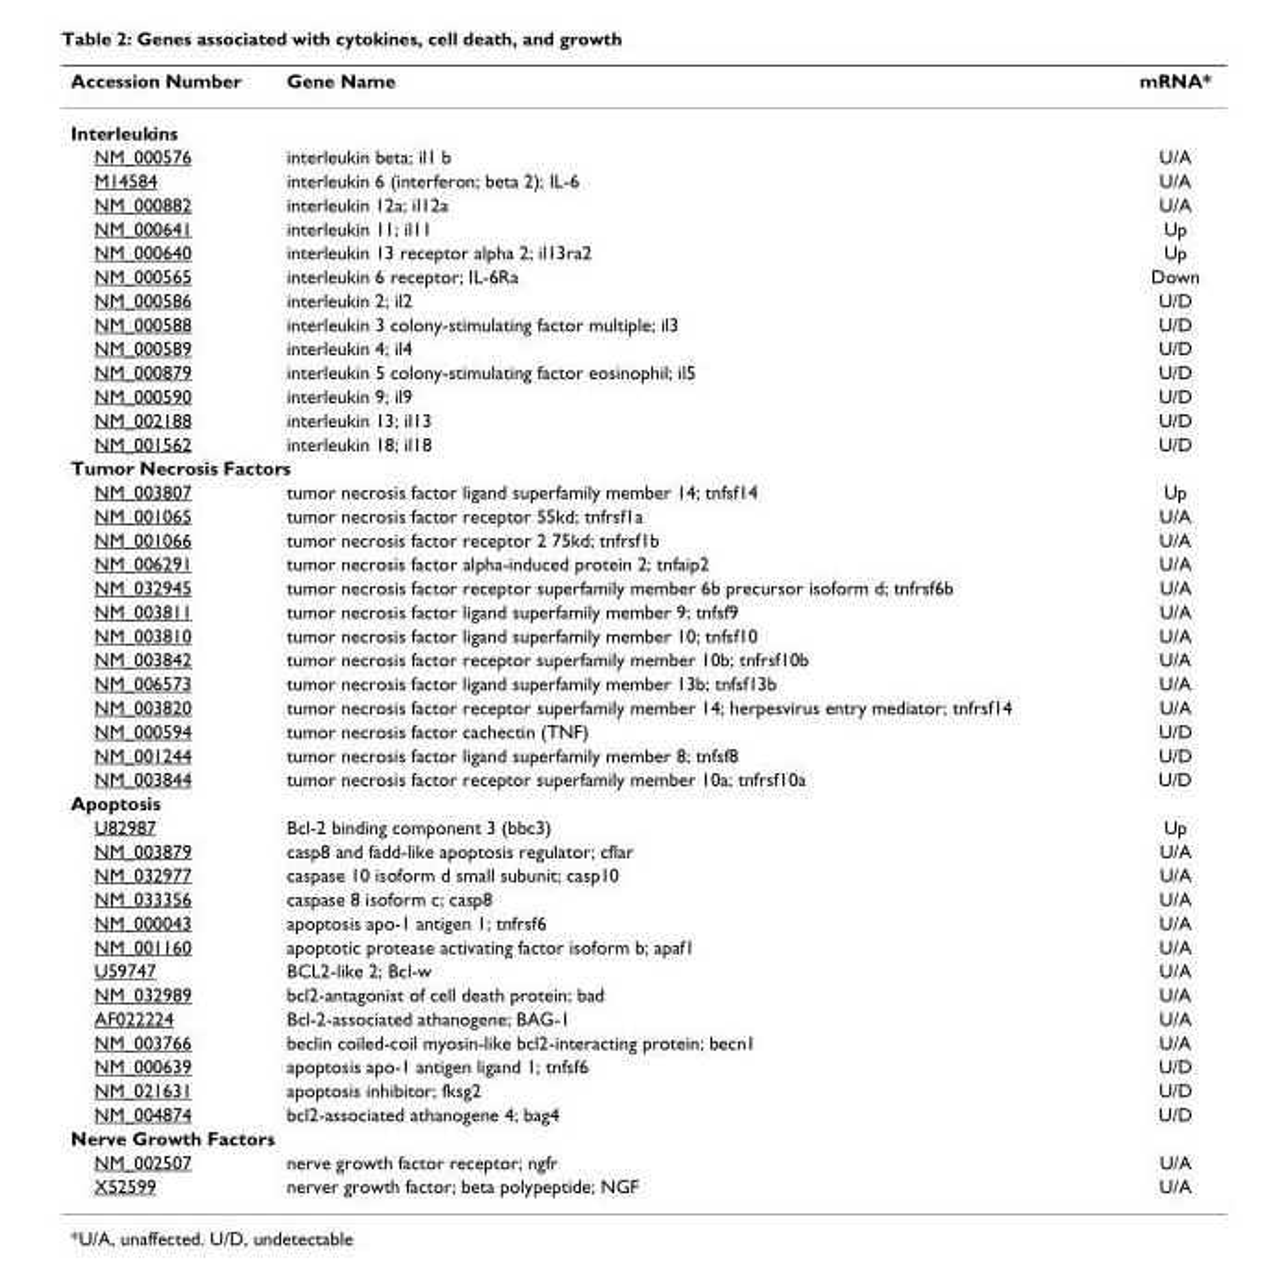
<table><thead><tr><td>Accession Number</td><td>Gene Name</td><td>mRNA*</td></tr></thead><tbody><tr><td colspan="3">Interleukins</td></tr><tr><td>NM_000576</td><td>interleukin beta; il1 b</td><td>U/A</td></tr><tr><td>M14584</td><td>interleukin 6 (interferon; beta 2); IL-6</td><td>U/A</td></tr><tr><td>NM_000882</td><td>interleukin 12a; il12a</td><td>U/A</td></tr><tr><td>NM_000641</td><td>interleukin 11; il11</td><td>Up</td></tr><tr><td>NM_000640</td><td>interleukin 13 receptor alpha 2; il13ra2</td><td>Up</td></tr><tr><td>NM_000565</td><td>interleukin 6 receptor; IL-6Ra</td><td>Down</td></tr><tr><td>NM_000586</td><td>interleukin 2; il2</td><td>U/D</td></tr><tr><td>NM_000588</td><td>interleukin 3 colony-stimulating factor multiple; il3</td><td>U/D</td></tr><tr><td>NM_000589</td><td>interleukin 4; il4</td><td>U/D</td></tr><tr><td>NM_000879</td><td>interleukin 5 colony-stimulating factor eosinophil; il5</td><td>U/D</td></tr><tr><td>NM_000590</td><td>interleukin 9; il9</td><td>U/D</td></tr><tr><td>NM_002188</td><td>interleukin 13; il13</td><td>U/D</td></tr><tr><td>NM_001562</td><td>interleukin 18; il18</td><td>U/D</td></tr><tr><td colspan="3">Tumor Necrosis Factors</td></tr><tr><td>NM_003807</td><td>tumor necrosis factor ligand superfamily member 14; tnfsf14</td><td>Up</td></tr><tr><td>NM_001065</td><td>tumor necrosis factor receptor 55kd; tnfrsf1a</td><td>U/A</td></tr><tr><td>NM_001066</td><td>tumor necrosis factor receptor 2 75kd; tnfrsf1b</td><td>U/A</td></tr><tr><td>NM_006291</td><td>tumor necrosis factor alpha-induced protein 2; tnfaip2</td><td>U/A</td></tr><tr><td>NM_032945</td><td>tumor necrosis factor receptor superfamily member 6b precursor isoform d; tnfrsf6b</td><td>U/A</td></tr><tr><td>NM_003811</td><td>tumor necrosis factor ligand superfamily member 9; tnfsf9</td><td>U/A</td></tr><tr><td>NM_003810</td><td>tumor necrosis factor ligand superfamily member 10; tnfsf10</td><td>U/A</td></tr><tr><td>NM_003842</td><td>tumor necrosis factor receptor superfamily member 10b; tnfrsf10b</td><td>U/A</td></tr><tr><td>NM_006573</td><td>tumor necrosis factor ligand superfamily member 13b; tnfsf13b</td><td>U/A</td></tr><tr><td>NM_003820</td><td>tumor necrosis factor receptor superfamily member 14; herpesvirus entry mediator; tnfrsf14</td><td>U/A</td></tr><tr><td>NM_000594</td><td>tumor necrosis factor cachectin (TNF)</td><td>U/D</td></tr><tr><td>NM_001244</td><td>tumor necrosis factor ligand superfamily member 8; tnfsf8</td><td>U/D</td></tr><tr><td>NM_003844</td><td>tumor necrosis factor receptor superfamily member 10a; tnfrsf10a</td><td>U/D</td></tr><tr><td colspan="3">Apoptosis</td></tr><tr><td>U82987</td><td>Bcl-2 binding component 3 (bbc3)</td><td>Up</td></tr><tr><td>NM_003879</td><td>casp8 and fadd-like apoptosis regulator; cflar</td><td>U/A</td></tr><tr><td>NM_032977</td><td>caspase 10 isoform d small subunit; casp10</td><td>U/A</td></tr><tr><td>NM_033356</td><td>caspase 8 isoform c; casp8</td><td>U/A</td></tr><tr><td>NM_000043</td><td>apoptosis apo-1 antigen 1; tnfrsf6</td><td>U/A</td></tr><tr><td>NM_001160</td><td>apoptotic protease activating factor isoform b; apaf1</td><td>U/A</td></tr><tr><td>U59747</td><td>BCL2-like 2; Bcl-w</td><td>U/A</td></tr><tr><td>NM_032989</td><td>bcl2-antagonist of cell death protein; bad</td><td>U/A</td></tr><tr><td>AF022224</td><td>Bcl-2-associated athanogene; BAG-1</td><td>U/A</td></tr><tr><td>NM_003766</td><td>beclin coiled-coil myosin-like bcl2-interacting protein; becn1</td><td>U/A</td></tr><tr><td>NM_000639</td><td>apoptosis apo-1 antigen ligand 1; tnfsf6</td><td>U/D</td></tr><tr><td>NM_021631</td><td>apoptosis inhibitor; fksg2</td><td>U/D</td></tr><tr><td>NM_004874</td><td>bcl2-associated athanogene 4; bag4</td><td>U/D</td></tr><tr><td colspan="3">Nerve Growth Factors</td></tr><tr><td>NM_002507</td><td>nerve growth factor receptor; ngfr</td><td>U/A</td></tr><tr><td>X52599</td><td>nerver growth factor; beta polypeptide; NGF</td><td>U/A</td></tr></tbody></table>